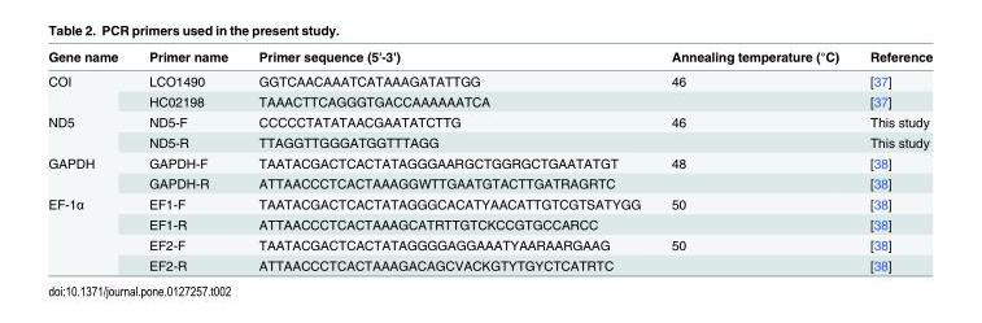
<table><thead><tr><td>Gene name</td><td>Primer name</td><td>Primer sequence (5&#x27;-3&#x27;)</td><td>Annealing temperature (°C)</td><td>Reference</td></tr></thead><tbody><tr><td rowspan="2">COI</td><td>LCO1490</td><td>GGTCAACAAATCATAAAGATATTGG</td><td>46</td><td>[37]</td></tr><tr><td>HC02198</td><td>TAAACTTCAGGGTGACCAAAAAATCA</td><td></td><td>[37]</td></tr><tr><td rowspan="2">ND5</td><td>ND5-F</td><td>CCCCCTATATAACGAATATCTTG</td><td>46</td><td>This study</td></tr><tr><td>ND5-R</td><td>TTAGGTTGGGATGGTTTAGG</td><td></td><td>This study</td></tr><tr><td rowspan="2">GAPDH</td><td>GAPDH-F</td><td>TAATACGACTCACTATAGGGAARGCTGGRGCTGAATATGT</td><td>48</td><td>[38]</td></tr><tr><td>GAPDH-R</td><td>ATTAACCCTCACTAAAGGWTTGAATGTACTTGATRAGRTC</td><td></td><td>[38]</td></tr><tr><td rowspan="4">EF-1α</td><td>EF1-F</td><td>TAATACGACTCACTATAGGGCACATYAACATTGTCGTSATYGG</td><td>50</td><td>[38]</td></tr><tr><td>EF1-R</td><td>ATTAACCCTCACTAAAGCATRTTGTCKCCGTGCCARCC</td><td></td><td>[38]</td></tr><tr><td>EF2-F</td><td>TAATACGACTCACTATAGGGGAGGAAATYAARAARGAAG</td><td>50</td><td>[38]</td></tr><tr><td>EF2-R</td><td>ATTAACCCTCACTAAAGACAGCVACKGTYTGYCTCATRTC</td><td></td><td>[38]</td></tr></tbody></table>